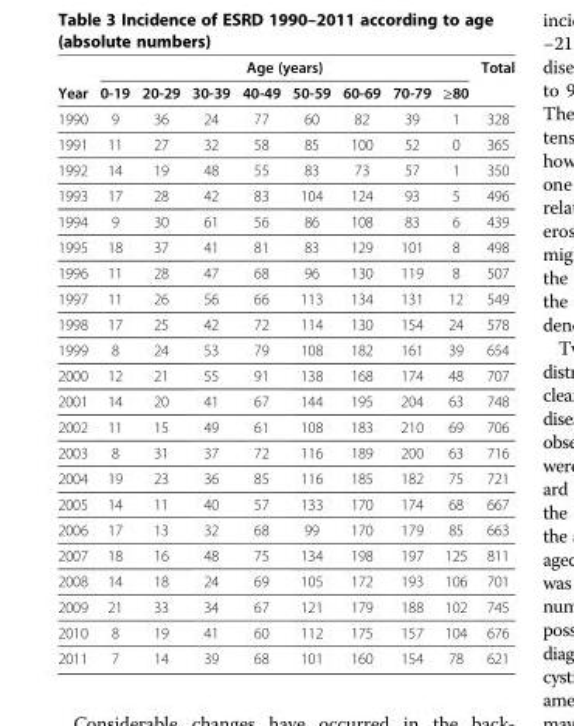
<table><thead><tr><td rowspan="2">Year</td><td colspan="8">Age (years)</td><td rowspan="2">Total</td></tr><tr><td>0-19</td><td>20-29</td><td>30-39</td><td>40-49</td><td>50-59</td><td>60-69</td><td>70-79</td><td>≥80</td></tr></thead><tbody><tr><td>1990</td><td>9</td><td>36</td><td>24</td><td>77</td><td>60</td><td>82</td><td>39</td><td>1</td><td>328</td></tr><tr><td>1991</td><td>11</td><td>27</td><td>32</td><td>58</td><td>85</td><td>100</td><td>52</td><td>0</td><td>365</td></tr><tr><td>1992</td><td>14</td><td>19</td><td>48</td><td>55</td><td>83</td><td>73</td><td>57</td><td>1</td><td>350</td></tr><tr><td>1993</td><td>17</td><td>28</td><td>42</td><td>83</td><td>104</td><td>124</td><td>93</td><td>5</td><td>496</td></tr><tr><td>1994</td><td>9</td><td>30</td><td>61</td><td>56</td><td>86</td><td>108</td><td>83</td><td>6</td><td>439</td></tr><tr><td>1995</td><td>18</td><td>37</td><td>41</td><td>81</td><td>83</td><td>129</td><td>101</td><td>8</td><td>498</td></tr><tr><td>1996</td><td>11</td><td>28</td><td>47</td><td>68</td><td>96</td><td>130</td><td>119</td><td>8</td><td>507</td></tr><tr><td>1997</td><td>11</td><td>26</td><td>56</td><td>66</td><td>113</td><td>134</td><td>131</td><td>12</td><td>549</td></tr><tr><td>1998</td><td>17</td><td>25</td><td>42</td><td>72</td><td>114</td><td>130</td><td>154</td><td>24</td><td>578</td></tr><tr><td>1999</td><td>8</td><td>24</td><td>53</td><td>79</td><td>108</td><td>182</td><td>161</td><td>39</td><td>654</td></tr><tr><td>2000</td><td>12</td><td>21</td><td>55</td><td>91</td><td>138</td><td>168</td><td>174</td><td>48</td><td>707</td></tr><tr><td>2001</td><td>14</td><td>20</td><td>41</td><td>67</td><td>144</td><td>195</td><td>204</td><td>63</td><td>748</td></tr><tr><td>2002</td><td>11</td><td>15</td><td>49</td><td>61</td><td>108</td><td>183</td><td>210</td><td>69</td><td>706</td></tr><tr><td>2003</td><td>8</td><td>31</td><td>37</td><td>72</td><td>116</td><td>189</td><td>200</td><td>63</td><td>716</td></tr><tr><td>2004</td><td>19</td><td>23</td><td>36</td><td>85</td><td>116</td><td>185</td><td>182</td><td>75</td><td>721</td></tr><tr><td>2005</td><td>14</td><td>11</td><td>40</td><td>57</td><td>133</td><td>170</td><td>174</td><td>68</td><td>667</td></tr><tr><td>2006</td><td>17</td><td>13</td><td>32</td><td>68</td><td>99</td><td>170</td><td>179</td><td>85</td><td>663</td></tr><tr><td>2007</td><td>18</td><td>16</td><td>48</td><td>75</td><td>134</td><td>198</td><td>197</td><td>125</td><td>811</td></tr><tr><td>2008</td><td>14</td><td>18</td><td>24</td><td>69</td><td>105</td><td>172</td><td>193</td><td>106</td><td>701</td></tr><tr><td>2009</td><td>21</td><td>33</td><td>34</td><td>67</td><td>121</td><td>179</td><td>188</td><td>102</td><td>745</td></tr><tr><td>2010</td><td>8</td><td>19</td><td>41</td><td>60</td><td>112</td><td>175</td><td>157</td><td>104</td><td>676</td></tr><tr><td>2011</td><td>7</td><td>14</td><td>39</td><td>68</td><td>101</td><td>160</td><td>154</td><td>78</td><td>621</td></tr></tbody></table>